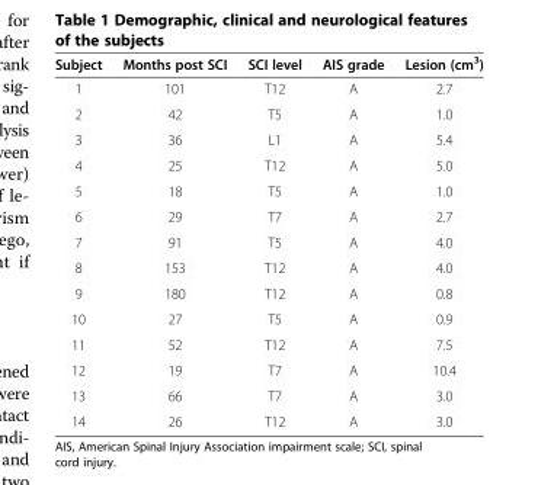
<table><thead><tr><td>Subject</td><td>Months post SCI</td><td>SCI level</td><td>AIS grade</td><td>Lesion (cm<sup>3</sup>)</td></tr></thead><tbody><tr><td>1</td><td>101</td><td>T12</td><td>A</td><td>2.7</td></tr><tr><td>2</td><td>42</td><td>T5</td><td>A</td><td>1.0</td></tr><tr><td>3</td><td>36</td><td>L1</td><td>A</td><td>5.4</td></tr><tr><td>4</td><td>25</td><td>T12</td><td>A</td><td>5.0</td></tr><tr><td>5</td><td>18</td><td>T5</td><td>A</td><td>1.0</td></tr><tr><td>6</td><td>29</td><td>T7</td><td>A</td><td>2.7</td></tr><tr><td>7</td><td>91</td><td>T5</td><td>A</td><td>4.0</td></tr><tr><td>8</td><td>153</td><td>T12</td><td>A</td><td>4.0</td></tr><tr><td>9</td><td>180</td><td>T12</td><td>A</td><td>0.8</td></tr><tr><td>10</td><td>27</td><td>T5</td><td>A</td><td>0.9</td></tr><tr><td>11</td><td>52</td><td>T12</td><td>A</td><td>7.5</td></tr><tr><td>12</td><td>19</td><td>T7</td><td>A</td><td>10.4</td></tr><tr><td>13</td><td>66</td><td>T7</td><td>A</td><td>3.0</td></tr><tr><td>14</td><td>26</td><td>T12</td><td>A</td><td>3.0</td></tr></tbody></table>